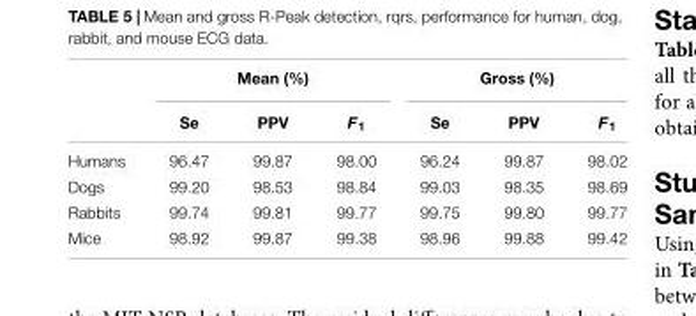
<table><thead><tr><td rowspan="2"></td><td colspan="3">Mean (%)</td><td colspan="3">Gross (%)</td></tr><tr><td>Se</td><td>PPV</td><td>F<sub>1</sub></td><td>Se</td><td>PPV</td><td>F<sub>1</sub></td></tr></thead><tbody><tr><td>Humans</td><td>96.47</td><td>99.87</td><td>98.00</td><td>96.24</td><td>99.87</td><td>98.02</td></tr><tr><td>Dogs</td><td>99.20</td><td>98.53</td><td>98.84</td><td>99.03</td><td>98.35</td><td>98.69</td></tr><tr><td>Rabbits</td><td>99.74</td><td>99.81</td><td>99.77</td><td>99.75</td><td>99.80</td><td>99.77</td></tr><tr><td>Mice</td><td>98.92</td><td>99.87</td><td>99.38</td><td>98.96</td><td>99.88</td><td>99.42</td></tr></tbody></table>